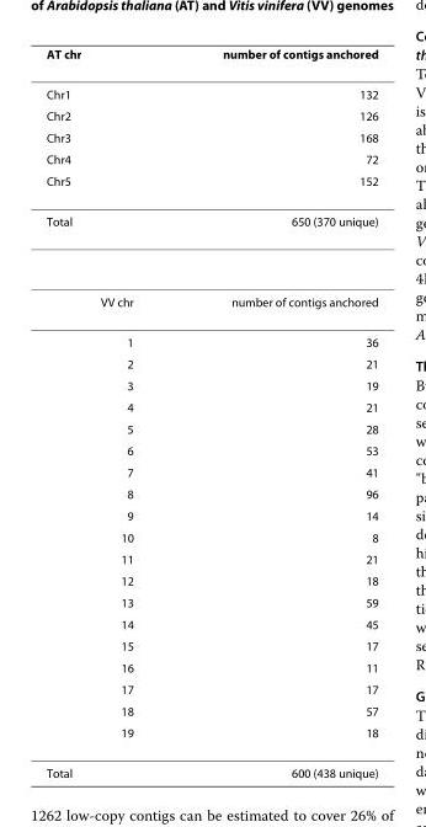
<table><thead><tr><td>AT chr</td><td>number of contigs anchored</td></tr></thead><tbody><tr><td>Chr1</td><td>132</td></tr><tr><td>Chr2</td><td>126</td></tr><tr><td>Chr3</td><td>168</td></tr><tr><td>Chr4</td><td>72</td></tr><tr><td>Chr5</td><td>152</td></tr><tr><td>Total</td><td>650 (370 unique)</td></tr><tr><td>VV chr</td><td>number of contigs anchored</td></tr><tr><td>1</td><td>36</td></tr><tr><td>2</td><td>21</td></tr><tr><td>3</td><td>19</td></tr><tr><td>4</td><td>21</td></tr><tr><td>5</td><td>28</td></tr><tr><td>6</td><td>53</td></tr><tr><td>7</td><td>41</td></tr><tr><td>8</td><td>96</td></tr><tr><td>9</td><td>14</td></tr><tr><td>10</td><td>8</td></tr><tr><td>11</td><td>21</td></tr><tr><td>12</td><td>18</td></tr><tr><td>13</td><td>59</td></tr><tr><td>14</td><td>45</td></tr><tr><td>15</td><td>17</td></tr><tr><td>16</td><td>11</td></tr><tr><td>17</td><td>17</td></tr><tr><td>18</td><td>57</td></tr><tr><td>19</td><td>18</td></tr><tr><td>Total</td><td>600 (438 unique)</td></tr></tbody></table>